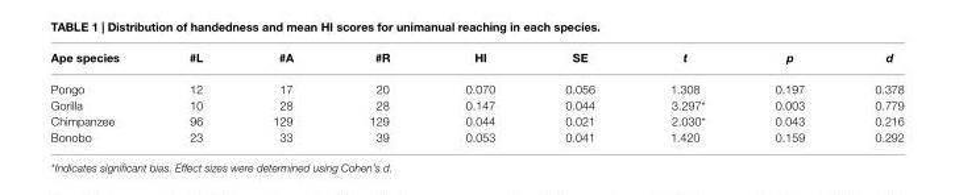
<table><thead><tr><td>Ape species</td><td>#L</td><td>#A</td><td>#R</td><td>HI</td><td>SE</td><td>t</td><td>p</td><td>d</td></tr></thead><tbody><tr><td>Pongo</td><td>12</td><td>17</td><td>20</td><td>0.070</td><td>0.056</td><td>1.308</td><td>0.197</td><td>0.378</td></tr><tr><td>Gorilla</td><td>10</td><td>28</td><td>28</td><td>0.147</td><td>0.044</td><td>3.297*</td><td>0.003</td><td>0.779</td></tr><tr><td>Chimpanzee</td><td>96</td><td>129</td><td>129</td><td>0.044</td><td>0.021</td><td>2.030*</td><td>0.043</td><td>0.216</td></tr><tr><td>Bonobo</td><td>23</td><td>33</td><td>39</td><td>0.053</td><td>0.041</td><td>1.420</td><td>0.159</td><td>0.292</td></tr></tbody></table>